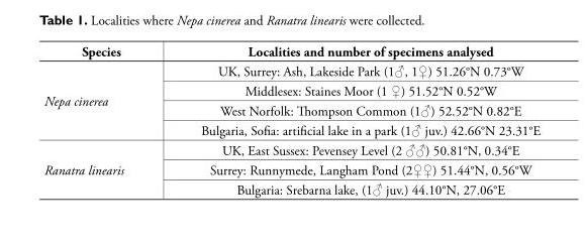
<table><tbody><tr><td>Species</td><td>Localities and number of specimens analysed</td></tr><tr><td rowspan="4">Nepa cinerea</td><td>UK, Surrey: Ash, Lakeside Park (1♂, 1♀) 51.26°N 0.73°W</td></tr><tr><td>Middlesex: Staines Moor (1 ♀) 51.52°N 0.52°W</td></tr><tr><td>West Norfolk: Thompson Common (1♂) 52.52°N 0.82°E</td></tr><tr><td>Bulgaria, Sofia: artificial lake in a park (1♂ juv.) 42.66°N 23.31°E</td></tr><tr><td rowspan="3">Ranatra linearis</td><td>UK, East Sussex: Pevensey Level (2 ♂♂) 50.81°N, 0.34°E</td></tr><tr><td>Surrey: Runnymede, Langham Pond (2♀♀) 51.44°N, 0.56°W</td></tr><tr><td>Bulgaria: Srebarna lake, (1♂ juv.) 44.10°N, 27.06°E</td></tr></tbody></table>